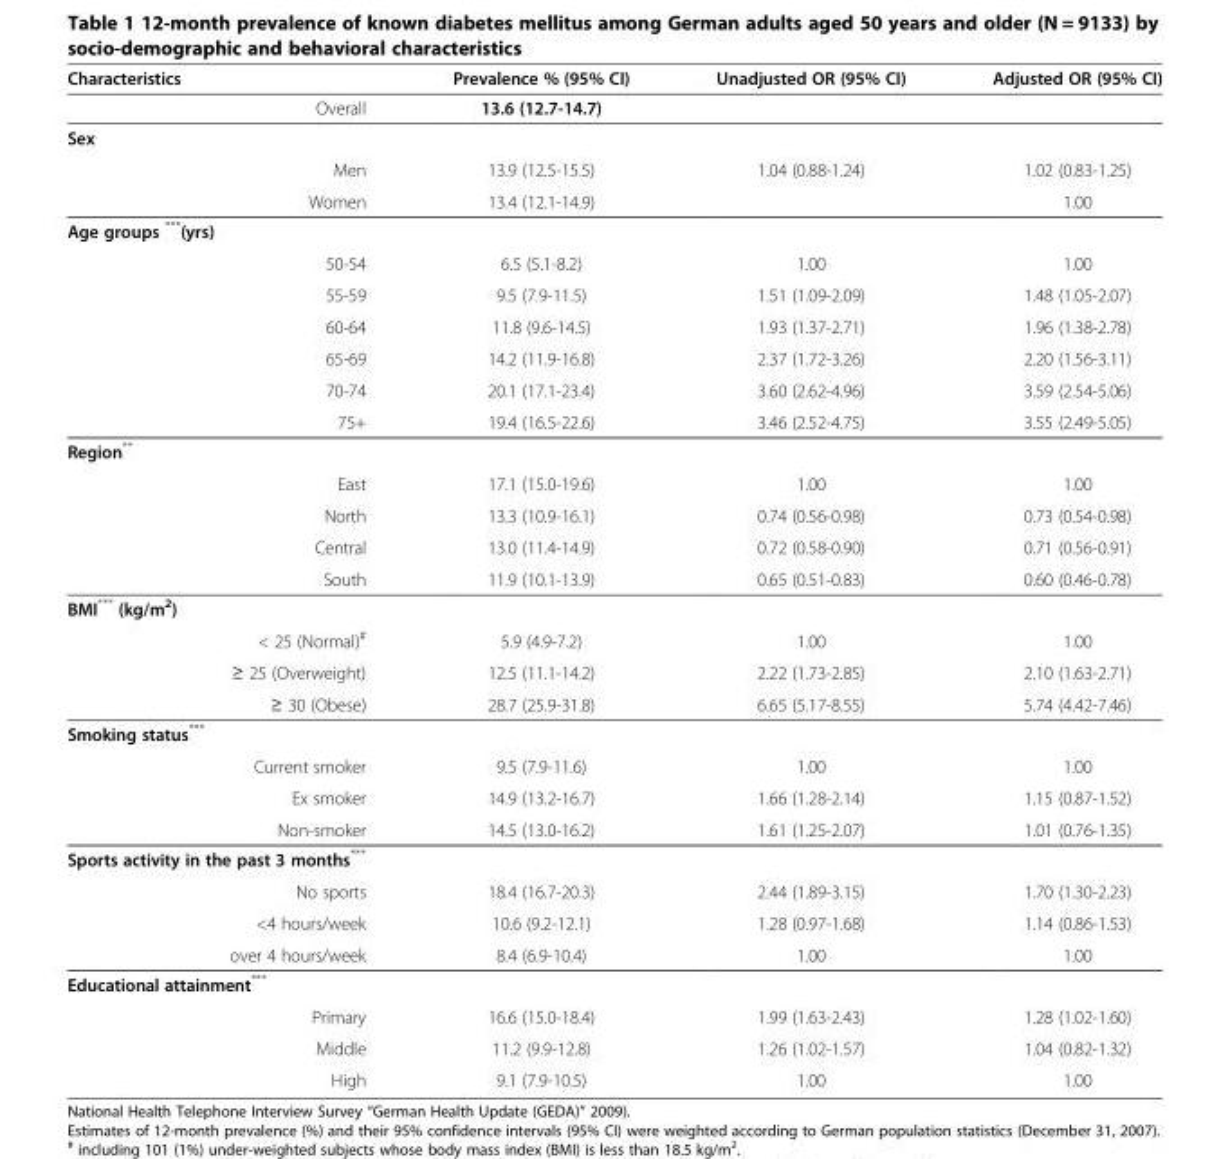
<table><thead><tr><td>Characteristics</td><td>Prevalence % (95% CI)</td><td>Unadjusted OR (95% CI)</td><td>Adjusted OR (95% CI)</td></tr></thead><tbody><tr><td>Overall</td><td>13.6 (12.7-14.7)</td><td></td><td></td></tr><tr><td colspan="4">Sex</td></tr><tr><td>Men</td><td>13.9 (12.5-15.5)</td><td>1.04 (0.88-1.24)</td><td>1.02 (0.83-1.25)</td></tr><tr><td>Women</td><td>13.4 (12.1-14.9)</td><td></td><td>1.00</td></tr><tr><td colspan="4">Age groups ***(yrs)</td></tr><tr><td>50-54</td><td>6.5 (5.1-8.2)</td><td>1.00</td><td>1.00</td></tr><tr><td>55-59</td><td>9.5 (7.9-11.5)</td><td>1.51 (1.09-2.09)</td><td>1.48 (1.05-2.07)</td></tr><tr><td>60-64</td><td>11.8 (9.6-14.5)</td><td>1.93 (1.37-2.71)</td><td>1.96 (1.38-2.78)</td></tr><tr><td>65-69</td><td>14.2 (11.9-16.8)</td><td>2.37 (1.72-3.26)</td><td>2.20 (1.56-3.11)</td></tr><tr><td>70-74</td><td>20.1 (17.1-23.4)</td><td>3.60 (2.62-4.96)</td><td>3.59 (2.54-5.06)</td></tr><tr><td>75+</td><td>19.4 (16.5-22.6)</td><td>3.46 (2.52-4.75)</td><td>3.55 (2.49-5.05)</td></tr><tr><td colspan="4">Region**</td></tr><tr><td>East</td><td>17.1 (15.0-19.6)</td><td>1.00</td><td>1.00</td></tr><tr><td>North</td><td>13.3 (10.9-16.1)</td><td>0.74 (0.56-0.98)</td><td>0.73 (0.54-0.98)</td></tr><tr><td>Central</td><td>13.0 (11.4-14.9)</td><td>0.72 (0.58-0.90)</td><td>0.71 (0.56-0.91)</td></tr><tr><td>South</td><td>11.9 (10.1-13.9)</td><td>0.65 (0.51-0.83)</td><td>0.60 (0.46-0.78)</td></tr><tr><td colspan="4">BMI*** (kg/m<sup>2</sup>)</td></tr><tr><td>&lt; 25 (Normal)<sup>#</sup></td><td>5.9 (4.9-7.2)</td><td>1.00</td><td>1.00</td></tr><tr><td>≥ 25 (Overweight)</td><td>12.5 (11.1-14.2)</td><td>2.22 (1.73-2.85)</td><td>2.10 (1.63-2.71)</td></tr><tr><td>≥ 30 (Obese)</td><td>28.7 (25.9-31.8)</td><td>6.65 (5.17-8.55)</td><td>5.74 (4.42-7.46)</td></tr><tr><td colspan="4">Smoking status***</td></tr><tr><td>Current smoker</td><td>9.5 (7.9-11.6)</td><td>1.00</td><td>1.00</td></tr><tr><td>Ex smoker</td><td>14.9 (13.2-16.7)</td><td>1.66 (1.28-2.14)</td><td>1.15 (0.87-1.52)</td></tr><tr><td>Non-smoker</td><td>14.5 (13.0-16.2)</td><td>1.61 (1.25-2.07)</td><td>1.01 (0.76-1.35)</td></tr><tr><td colspan="4">Sports activity in the past 3 months***</td></tr><tr><td>No sports</td><td>18.4 (16.7-20.3)</td><td>2.44 (1.89-3.15)</td><td>1.70 (1.30-2.23)</td></tr><tr><td>&lt;4 hours/week</td><td>10.6 (9.2-12.1)</td><td>1.28 (0.97-1.68)</td><td>1.14 (0.86-1.53)</td></tr><tr><td>over 4 hours/week</td><td>8.4 (6.9-10.4)</td><td>1.00</td><td>1.00</td></tr><tr><td colspan="4">Educational attainment***</td></tr><tr><td>Primary</td><td>16.6 (15.0-18.4)</td><td>1.99 (1.63-2.43)</td><td>1.28 (1.02-1.60)</td></tr><tr><td>Middle</td><td>11.2 (9.9-12.8)</td><td>1.26 (1.02-1.57)</td><td>1.04 (0.82-1.32)</td></tr><tr><td>High</td><td>9.1 (7.9-10.5)</td><td>1.00</td><td>1.00</td></tr></tbody></table>